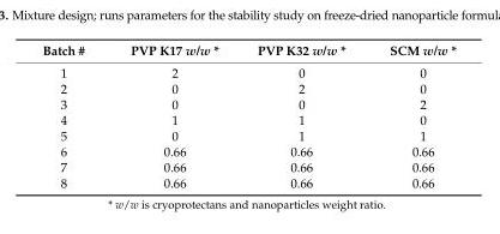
<table><thead><tr><td>Batch #</td><td>PVP K17 w/w *</td><td>PVP K32 w/w *</td><td>SCM w/w *</td></tr></thead><tbody><tr><td>1</td><td>2</td><td>0</td><td>0</td></tr><tr><td>2</td><td>0</td><td>2</td><td>0</td></tr><tr><td>3</td><td>0</td><td>0</td><td>2</td></tr><tr><td>4</td><td>1</td><td>1</td><td>0</td></tr><tr><td>5</td><td>0</td><td>1</td><td>1</td></tr><tr><td>6</td><td>0.66</td><td>0.66</td><td>0.66</td></tr><tr><td>7</td><td>0.66</td><td>0.66</td><td>0.66</td></tr><tr><td>8</td><td>0.66</td><td>0.66</td><td>0.66</td></tr></tbody></table>